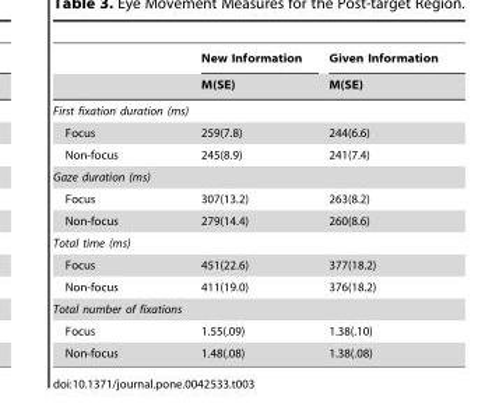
<table><thead><tr><td rowspan="2"></td><td rowspan="2">New Information M(SE)</td><td rowspan="2">Given Information M(SE)</td></tr><tr></tr></thead><tbody><tr><td colspan="3">First fixation duration (ms)</td></tr><tr><td>Focus</td><td>259(7.8)</td><td>244(6.6)</td></tr><tr><td>Non-focus</td><td>245(8.9)</td><td>241(7.4)</td></tr><tr><td colspan="3">Gaze duration (ms)</td></tr><tr><td>Focus</td><td>307(13.2)</td><td>263(8.2)</td></tr><tr><td>Non-focus</td><td>279(14.4)</td><td>260(8.6)</td></tr><tr><td colspan="3">Total time (ms)</td></tr><tr><td>Focus</td><td>451(22.6)</td><td>377(18.2)</td></tr><tr><td>Non-focus</td><td>411(19.0)</td><td>376(18.2)</td></tr><tr><td colspan="3">Total number of fixations</td></tr><tr><td>Focus</td><td>1.55(.09)</td><td>1.38(.10)</td></tr><tr><td>Non-focus</td><td>1.48(.08)</td><td>1.38(.08)</td></tr></tbody></table>